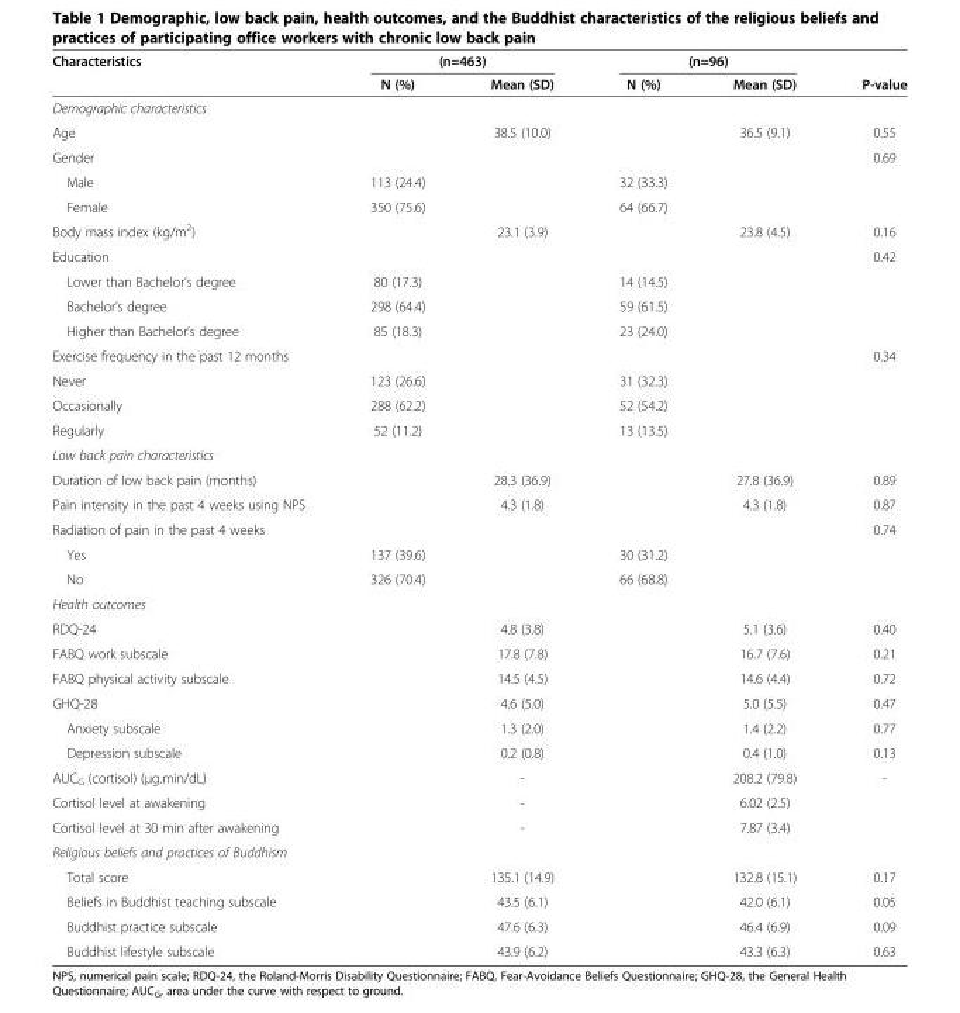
<table><thead><tr><td rowspan="2">Characteristics</td><td colspan="2">(n=463)</td><td colspan="2">(n=96)</td><td rowspan="2">P-value</td></tr><tr><td>N (%)</td><td>Mean (SD)</td><td>N (%)</td><td>Mean (SD)</td></tr></thead><tbody><tr><td colspan="6">Demographic characteristics</td></tr><tr><td>Age</td><td></td><td>38.5 (10.0)</td><td></td><td>36.5 (9.1)</td><td>0.55</td></tr><tr><td>Gender</td><td></td><td></td><td></td><td></td><td>0.69</td></tr><tr><td>Male</td><td>113 (24.4)</td><td></td><td>32 (33.3)</td><td></td><td></td></tr><tr><td>Female</td><td>350 (75.6)</td><td></td><td>64 (66.7)</td><td></td><td></td></tr><tr><td>Body mass index (kg/m<sup>2</sup>)</td><td></td><td>23.1 (3.9)</td><td></td><td>23.8 (4.5)</td><td>0.16</td></tr><tr><td>Education</td><td></td><td></td><td></td><td></td><td>0.42</td></tr><tr><td>Lower than Bachelor’s degree</td><td>80 (17.3)</td><td></td><td>14 (14.5)</td><td></td><td></td></tr><tr><td>Bachelor’s degree</td><td>298 (64.4)</td><td></td><td>59 (61.5)</td><td></td><td></td></tr><tr><td>Higher than Bachelor’s degree</td><td>85 (18.3)</td><td></td><td>23 (24.0)</td><td></td><td></td></tr><tr><td>Exercise frequency in the past 12 months</td><td></td><td></td><td></td><td></td><td>0.34</td></tr><tr><td>Never</td><td>123 (26.6)</td><td></td><td>31 (32.3)</td><td></td><td></td></tr><tr><td>Occasionally</td><td>288 (62.2)</td><td></td><td>52 (54.2)</td><td></td><td></td></tr><tr><td>Regularly</td><td>52 (11.2)</td><td></td><td>13 (13.5)</td><td></td><td></td></tr><tr><td colspan="6">Low back pain characteristics</td></tr><tr><td>Duration of low back pain (months)</td><td></td><td>28.3 (36.9)</td><td></td><td>27.8 (36.9)</td><td>0.89</td></tr><tr><td>Pain intensity in the past 4 weeks using NPS</td><td></td><td>4.3 (1.8)</td><td></td><td>4.3 (1.8)</td><td>0.87</td></tr><tr><td>Radiation of pain in the past 4 weeks</td><td></td><td></td><td></td><td></td><td>0.74</td></tr><tr><td>Yes</td><td>137 (39.6)</td><td></td><td>30 (31.2)</td><td></td><td></td></tr><tr><td>No</td><td>326 (70.4)</td><td></td><td>66 (68.8)</td><td></td><td></td></tr><tr><td colspan="6">Health outcomes</td></tr><tr><td>RDQ-24</td><td></td><td>4.8 (3.8)</td><td></td><td>5.1 (3.6)</td><td>0.40</td></tr><tr><td>FABQ work subscale</td><td></td><td>17.8 (7.8)</td><td></td><td>16.7 (7.6)</td><td>0.21</td></tr><tr><td>FABQ physical activity subscale</td><td></td><td>14.5 (4.5)</td><td></td><td>14.6 (4.4)</td><td>0.72</td></tr><tr><td>GHQ-28</td><td></td><td>4.6 (5.0)</td><td></td><td>5.0 (5.5)</td><td>0.47</td></tr><tr><td>Anxiety subscale</td><td></td><td>1.3 (2.0)</td><td></td><td>1.4 (2.2)</td><td>0.77</td></tr><tr><td>Depression subscale</td><td></td><td>0.2 (0.8)</td><td></td><td>0.4 (1.0)</td><td>0.13</td></tr><tr><td>AUC<sub>G</sub> (cortisol) (μg.min/dL)</td><td></td><td>-</td><td></td><td>208.2 (79.8)</td><td>-</td></tr><tr><td>Cortisol level at awakening</td><td></td><td>-</td><td></td><td>6.02 (2.5)</td><td></td></tr><tr><td>Cortisol level at 30 min after awakening</td><td></td><td>-</td><td></td><td>7.87 (3.4)</td><td></td></tr><tr><td colspan="6">Religious beliefs and practices of Buddhism</td></tr><tr><td>Total score</td><td></td><td>135.1 (14.9)</td><td></td><td>132.8 (15.1)</td><td>0.17</td></tr><tr><td>Beliefs in Buddhist teaching subscale</td><td></td><td>43.5 (6.1)</td><td></td><td>42.0 (6.1)</td><td>0.05</td></tr><tr><td>Buddhist practice subscale</td><td></td><td>47.6 (6.3)</td><td></td><td>46.4 (6.9)</td><td>0.09</td></tr><tr><td>Buddhist lifestyle subscale</td><td></td><td>43.9 (6.2)</td><td></td><td>43.3 (6.3)</td><td>0.63</td></tr></tbody></table>